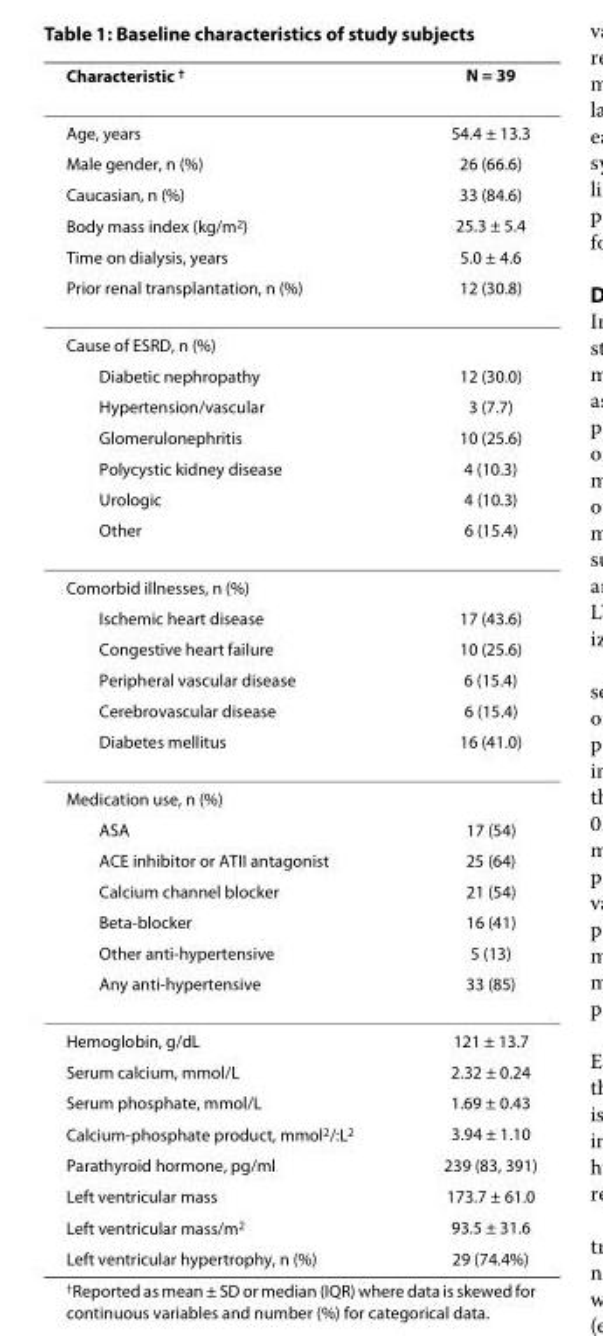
<table><thead><tr><td>Characteristic <sup>†</sup></td><td>N = 39</td></tr></thead><tbody><tr><td>Age, years</td><td>54.4 ± 13.3</td></tr><tr><td>Male gender, n (%)</td><td>26 (66.6)</td></tr><tr><td>Caucasian, n (%)</td><td>33 (84.6)</td></tr><tr><td>Body mass index (kg/m<sup>2</sup>)</td><td>25.3 ± 5.4</td></tr><tr><td>Time on dialysis, years</td><td>5.0 ± 4.6</td></tr><tr><td>Prior renal transplantation, n (%)</td><td>12 (30.8)</td></tr><tr><td colspan="2">Cause of ESRD, n (%)</td></tr><tr><td>Diabetic nephropathy</td><td>12 (30.0)</td></tr><tr><td>Hypertension/vascular</td><td>3 (7.7)</td></tr><tr><td>Glomerulonephritis</td><td>10 (25.6)</td></tr><tr><td>Polycystic kidney disease</td><td>4 (10.3)</td></tr><tr><td>Urologic</td><td>4 (10.3)</td></tr><tr><td>Other</td><td>6 (15.4)</td></tr><tr><td colspan="2">Comorbid illnesses, n (%)</td></tr><tr><td>Ischemic heart disease</td><td>17 (43.6)</td></tr><tr><td>Congestive heart failure</td><td>10 (25.6)</td></tr><tr><td>Peripheral vascular disease</td><td>6 (15.4)</td></tr><tr><td>Cerebrovascular disease</td><td>6 (15.4)</td></tr><tr><td>Diabetes mellitus</td><td>16 (41.0)</td></tr><tr><td colspan="2">Medication use, n (%)</td></tr><tr><td>ASA</td><td>17 (54)</td></tr><tr><td>ACE inhibitor or ATII antagonist</td><td>25 (64)</td></tr><tr><td>Calcium channel blocker</td><td>21 (54)</td></tr><tr><td>Beta-blocker</td><td>16 (41)</td></tr><tr><td>Other anti-hypertensive</td><td>5 (13)</td></tr><tr><td>Any anti-hypertensive</td><td>33 (85)</td></tr><tr><td>Hemoglobin, g/dL</td><td>121 ± 13.7</td></tr><tr><td>Serum calcium, mmol/L</td><td>2.32 ± 0.24</td></tr><tr><td>Serum phosphate, mmol/L</td><td>1.69 ± 0.43</td></tr><tr><td>Calcium-phosphate product, mmol<sup>2</sup>/:L<sup>2</sup></td><td>3.94 ± 1.10</td></tr><tr><td>Parathyroid hormone, pg/ml</td><td>239 (83, 391)</td></tr><tr><td>Left ventricular mass</td><td>173.7 ± 61.0</td></tr><tr><td>Left ventricular mass/m<sup>2</sup></td><td>93.5 ± 31.6</td></tr><tr><td>Left ventricular hypertrophy, n (%)</td><td>29 (74.4%)</td></tr></tbody></table>